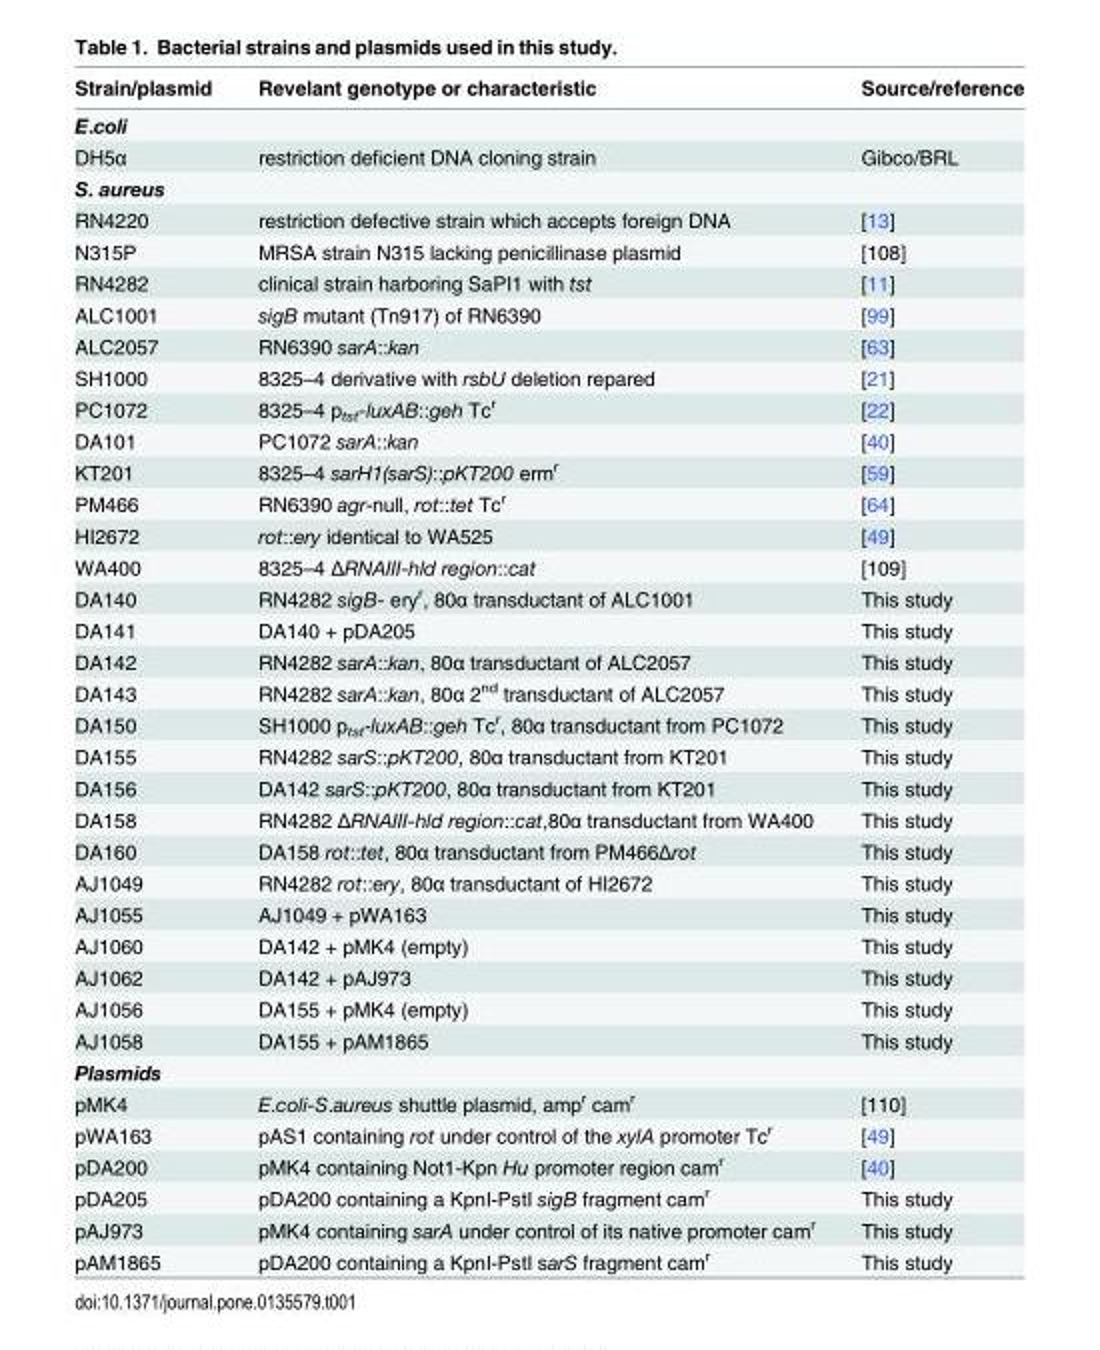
<table><thead><tr><td>Strain/plasmid</td><td>Revelant genotype or characteristic</td><td>Source/reference</td></tr></thead><tbody><tr><td colspan="3">E.coli</td></tr><tr><td>DH5α</td><td>restriction deficient DNA cloning strain</td><td>Gibco/BRL</td></tr><tr><td colspan="3">S. aureus</td></tr><tr><td>RN4220</td><td>restriction defective strain which accepts foreign DNA</td><td>[13]</td></tr><tr><td>N315P</td><td>MRSA strain N315 lacking penicillinase plasmid</td><td>[108]</td></tr><tr><td>RN4282</td><td>clinical strain harboring SaPI1 with tst</td><td>[11]</td></tr><tr><td>ALC1001</td><td>sigB mutant (Tn917) of RN6390</td><td>[99]</td></tr><tr><td>ALC2057</td><td>RN6390 sarA::kan</td><td>[63]</td></tr><tr><td>SH1000</td><td>8325–4 derivative with rsbU deletion repared</td><td>[21]</td></tr><tr><td>PC1072</td><td>8325–4 p<sub>tst</sub>-luxAB::geh Tc<sup>r</sup></td><td>[22]</td></tr><tr><td>DA101</td><td>PC1072 sarA::kan</td><td>[40]</td></tr><tr><td>KT201</td><td>8325–4 sarH1(sarS)::pKT200 erm<sup>r</sup></td><td>[59]</td></tr><tr><td>PM466</td><td>RN6390 agr-null, rot::tet Tc<sup>r</sup></td><td>[64]</td></tr><tr><td>HI2672</td><td>rot::ery identical to WA525</td><td>[49]</td></tr><tr><td>WA400</td><td>8325–4 ΔRNAIII-hld region::cat</td><td>[109]</td></tr><tr><td>DA140</td><td>RN4282 sigB- ery<sup>r</sup>, 80α transductant of ALC1001</td><td>This study</td></tr><tr><td>DA141</td><td>DA140 + pDA205</td><td>This study</td></tr><tr><td>DA142</td><td>RN4282 sarA::kan, 80α transductant of ALC2057</td><td>This study</td></tr><tr><td>DA143</td><td>RN4282 sarA::kan, 80α 2<sup>nd</sup> transductant of ALC2057</td><td>This study</td></tr><tr><td>DA150</td><td>SH1000 p<sub>tst</sub>-luxAB::geh Tc<sup>r</sup>, 80α transductant from PC1072</td><td>This study</td></tr><tr><td>DA155</td><td>RN4282 sarS::pKT200, 80α transductant from KT201</td><td>This study</td></tr><tr><td>DA156</td><td>DA142 sarS::pKT200, 80α transductant from KT201</td><td>This study</td></tr><tr><td>DA158</td><td>RN4282 ΔRNAIII-hld region::cat,80α transductant from WA400</td><td>This study</td></tr><tr><td>DA160</td><td>DA158 rot::tet, 80α transductant from PM466Δrot</td><td>This study</td></tr><tr><td>AJ1049</td><td>RN4282 rot::ery, 80α transductant of HI2672</td><td>This study</td></tr><tr><td>AJ1055</td><td>AJ1049 + pWA163</td><td>This study</td></tr><tr><td>AJ1060</td><td>DA142 + pMK4 (empty)</td><td>This study</td></tr><tr><td>AJ1062</td><td>DA142 + pAJ973</td><td>This study</td></tr><tr><td>AJ1056</td><td>DA155 + pMK4 (empty)</td><td>This study</td></tr><tr><td>AJ1058</td><td>DA155 + pAM1865</td><td>This study</td></tr><tr><td colspan="3">Plasmids</td></tr><tr><td>pMK4</td><td>E.coli-S.aureus shuttle plasmid, amp<sup>r</sup> cam<sup>r</sup></td><td>[110]</td></tr><tr><td>pWA163</td><td>pAS1 containing rot under control of the xylA promoter Tc<sup>r</sup></td><td>[49]</td></tr><tr><td>pDA200</td><td>pMK4 containing Not1-Kpn Hu promoter region cam<sup>r</sup></td><td>[40]</td></tr><tr><td>pDA205</td><td>pDA200 containing a KpnI-PstI sigB fragment cam<sup>r</sup></td><td>This study</td></tr><tr><td>pAJ973</td><td>pMK4 containing sarA under control of its native promoter cam<sup>r</sup></td><td>This study</td></tr><tr><td>pAM1865</td><td>pDA200 containing a KpnI-PstI sarS fragment cam<sup>r</sup></td><td>This study</td></tr></tbody></table>